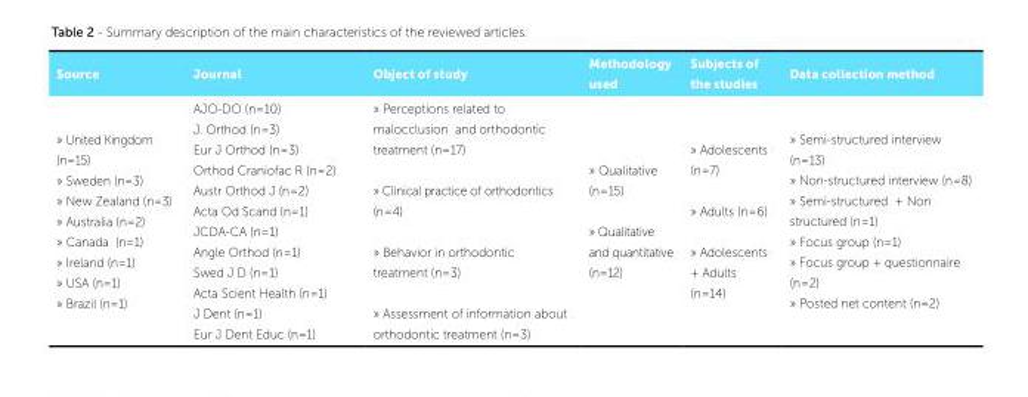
<table><tbody><tr><td>Source</td><td>Journal</td><td>Object of study</td><td>Methodology used</td><td>Subjects of the studies</td><td>Data collection method</td></tr><tr><td>» United Kingdom (n=15) » Sweden (n=3) » New Zealand (n=3) » Australia (n=2) » Canada (n=1) » Ireland (n=1) » USA (n=1) » Brazil (n=1)</td><td>AJO-DO (n=10) J. Orthod (n=3) Eur J Orthod (n=3) Orthod Craniofac R (n=2) Austr Orthod J (n=2) Acta Od Scand (n=1) JCDA-CA (n=1) Angle Orthod (n=1) Swed J D (n=1) Acta Scient Health (n=1) J Dent (n=1) Eur J Dent Educ (n=1)</td><td>» Perceptions related to malocclusion and orthodontic treatment (n=17) » Clinical practice of orthodontics (n=4) » Behavior in orthodontic treatment (n=3) » Assessment of information about orthodontic treatment (n=3)</td><td>» Qualitative (n=15) » Qualitative and quantitative (n=12)</td><td>» Adolescents (n=7) » Adults (n=6) » Adolescents + Adults (n=14)</td><td>» Semi-structured interview (n=13) » Non-structured interview (n=8) » Semi-structured + Non structured (n=1) » Focus group (n=1) » Focus group + questionnaire (n=2) » Posted net content (n=2)</td></tr></tbody></table>